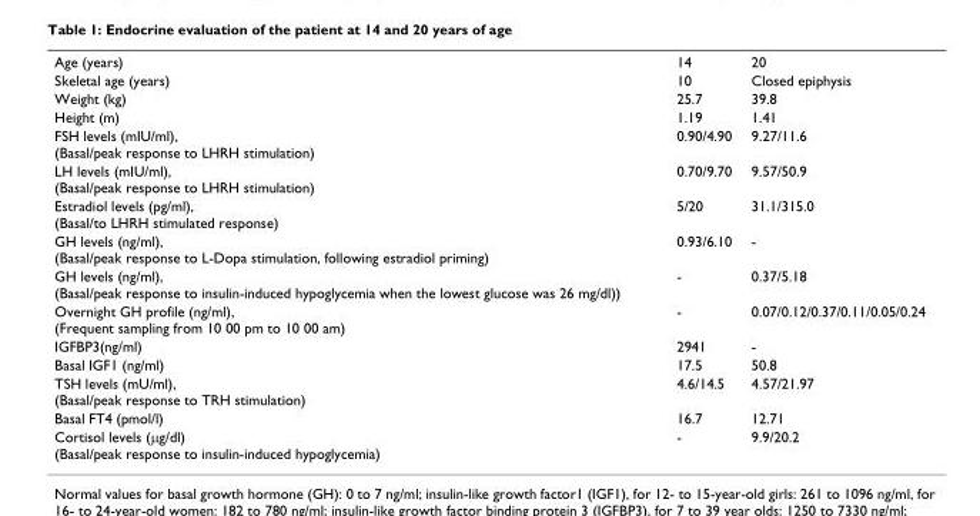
<table><tbody><tr><td>Age (years)</td><td>14</td><td>20</td></tr><tr><td>Skeletal age (years)</td><td>10</td><td>Closed epiphysis</td></tr><tr><td>Weight (kg)</td><td>25.7</td><td>39.8</td></tr><tr><td>Height (m)</td><td>1.19</td><td>1.41</td></tr><tr><td>FSH levels (mIU/ml), (Basal/peak response to LHRH stimulation)</td><td>0.90/4.90</td><td>9.27/11.6</td></tr><tr><td>LH levels (mIU/ml), (Basal/peak response to LHRH stimulation)</td><td>0.70/9.70</td><td>9.57/50.9</td></tr><tr><td>Estradiol levels (pg/ml), (Basal/to LHRH stimulated response)</td><td>5/20</td><td>31.1/315.0</td></tr><tr><td>GH levels (ng/ml), (Basal/peak response to L-Dopa stimulation, following estradiol priming)</td><td>0.93/6.10</td><td>-</td></tr><tr><td>GH levels (ng/ml), (Basal/peak response to insulin-induced hypoglycemia when the lowest glucose was 26 mg/dl))</td><td>-</td><td>0.37/5.18</td></tr><tr><td>Overnight GH profile (ng/ml), (Frequent sampling from 10 00 pm to 10 00 am)</td><td>-</td><td>0.07/0.12/0.37/0.11/0.05/0.24</td></tr><tr><td>IGFBP3(ng/ml)</td><td>2941</td><td>-</td></tr><tr><td>Basal IGF1 (ng/ml)</td><td>17.5</td><td>50.8</td></tr><tr><td>TSH levels (mU/ml), (Basal/peak response to TRH stimulation)</td><td>4.6/14.5</td><td>4.57/21.97</td></tr><tr><td>Basal FT4 (pmol/l)</td><td>16.7</td><td>12.71</td></tr><tr><td>Cortisol levels (μg/dl) (Basal/peak response to insulin-induced hypoglycemia)</td><td>-</td><td>9.9/20.2</td></tr></tbody></table>